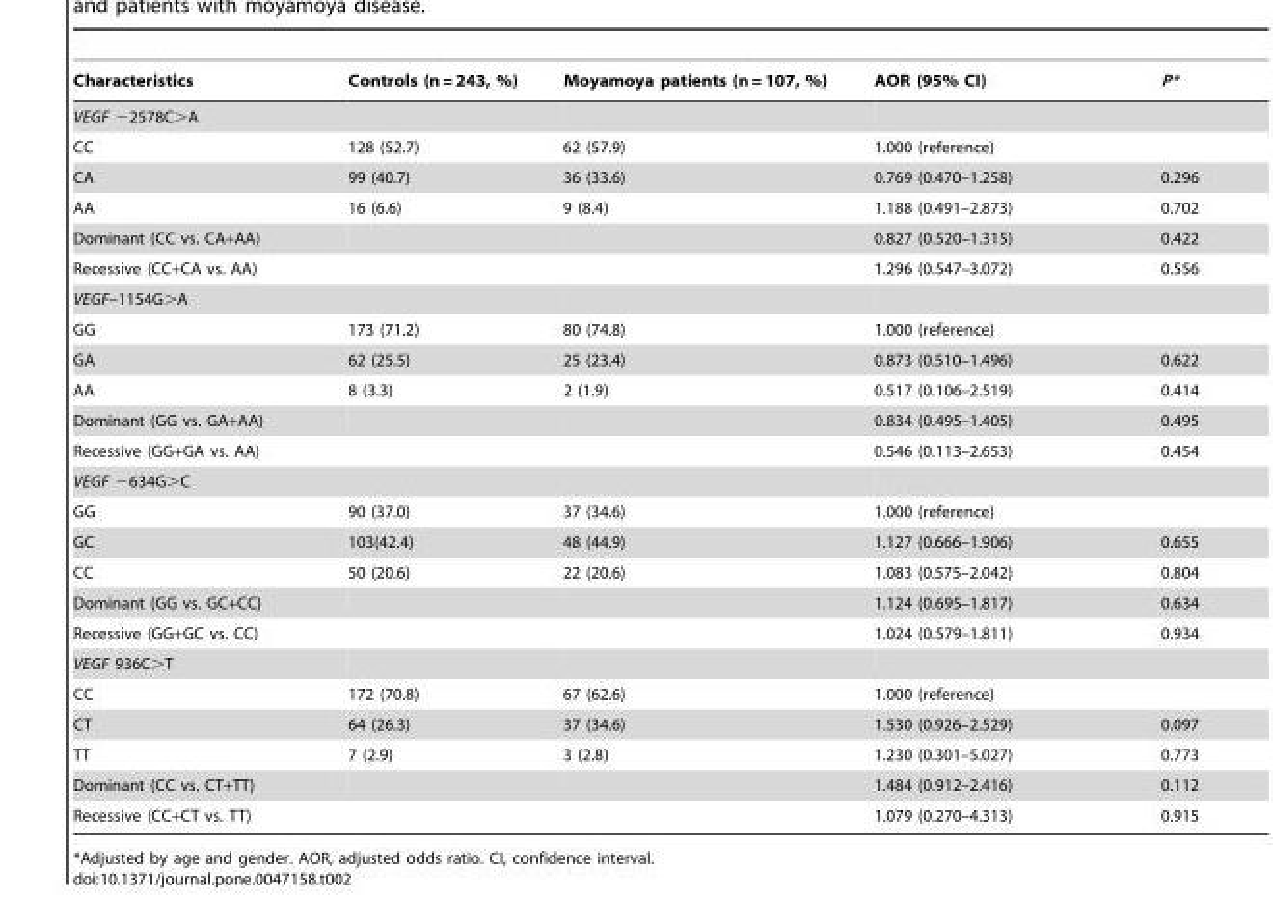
<table><thead><tr><td>Characteristics</td><td>Controls (n = 243, %)</td><td>Moyamoya patients (n = 107, %)</td><td>AOR (95% CI)</td><td>P*</td></tr></thead><tbody><tr><td colspan="5">VEGF −2578C&gt;A</td></tr><tr><td>CC</td><td>128 (52.7)</td><td>62 (57.9)</td><td>1.000 (reference)</td><td></td></tr><tr><td>CA</td><td>99 (40.7)</td><td>36 (33.6)</td><td>0.769 (0.470–1.258)</td><td>0.296</td></tr><tr><td>AA</td><td>16 (6.6)</td><td>9 (8.4)</td><td>1.188 (0.491–2.873)</td><td>0.702</td></tr><tr><td>Dominant (CC vs. CA+AA)</td><td></td><td></td><td>0.827 (0.520–1.315)</td><td>0.422</td></tr><tr><td>Recessive (CC+CA vs. AA)</td><td></td><td></td><td>1.296 (0.547–3.072)</td><td>0.556</td></tr><tr><td colspan="5">VEGF–1154G&gt;A</td></tr><tr><td>GG</td><td>173 (71.2)</td><td>80 (74.8)</td><td>1.000 (reference)</td><td></td></tr><tr><td>GA</td><td>62 (25.5)</td><td>25 (23.4)</td><td>0.873 (0.510–1.496)</td><td>0.622</td></tr><tr><td>AA</td><td>8 (3.3)</td><td>2 (1.9)</td><td>0.517 (0.106–2.519)</td><td>0.414</td></tr><tr><td>Dominant (GG vs. GA+AA)</td><td></td><td></td><td>0.834 (0.495–1.405)</td><td>0.495</td></tr><tr><td>Recessive (GG+GA vs. AA)</td><td></td><td></td><td>0.546 (0.113–2.653)</td><td>0.454</td></tr><tr><td colspan="5">VEGF −634G&gt;C</td></tr><tr><td>GG</td><td>90 (37.0)</td><td>37 (34.6)</td><td>1.000 (reference)</td><td></td></tr><tr><td>GC</td><td>103(42.4)</td><td>48 (44.9)</td><td>1.127 (0.666–1.906)</td><td>0.655</td></tr><tr><td>CC</td><td>50 (20.6)</td><td>22 (20.6)</td><td>1.083 (0.575–2.042)</td><td>0.804</td></tr><tr><td>Dominant (GG vs. GC+CC)</td><td></td><td></td><td>1.124 (0.695–1.817)</td><td>0.634</td></tr><tr><td>Recessive (GG+GC vs. CC)</td><td></td><td></td><td>1.024 (0.579–1.811)</td><td>0.934</td></tr><tr><td colspan="5">VEGF 936C&gt;T</td></tr><tr><td>CC</td><td>172 (70.8)</td><td>67 (62.6)</td><td>1.000 (reference)</td><td></td></tr><tr><td>CT</td><td>64 (26.3)</td><td>37 (34.6)</td><td>1.530 (0.926–2.529)</td><td>0.097</td></tr><tr><td>TT</td><td>7 (2.9)</td><td>3 (2.8)</td><td>1.230 (0.301–5.027)</td><td>0.773</td></tr><tr><td>Dominant (CC vs. CT+TT)</td><td></td><td></td><td>1.484 (0.912–2.416)</td><td>0.112</td></tr><tr><td>Recessive (CC+CT vs. TT)</td><td></td><td></td><td>1.079 (0.270–4.313)</td><td>0.915</td></tr></tbody></table>